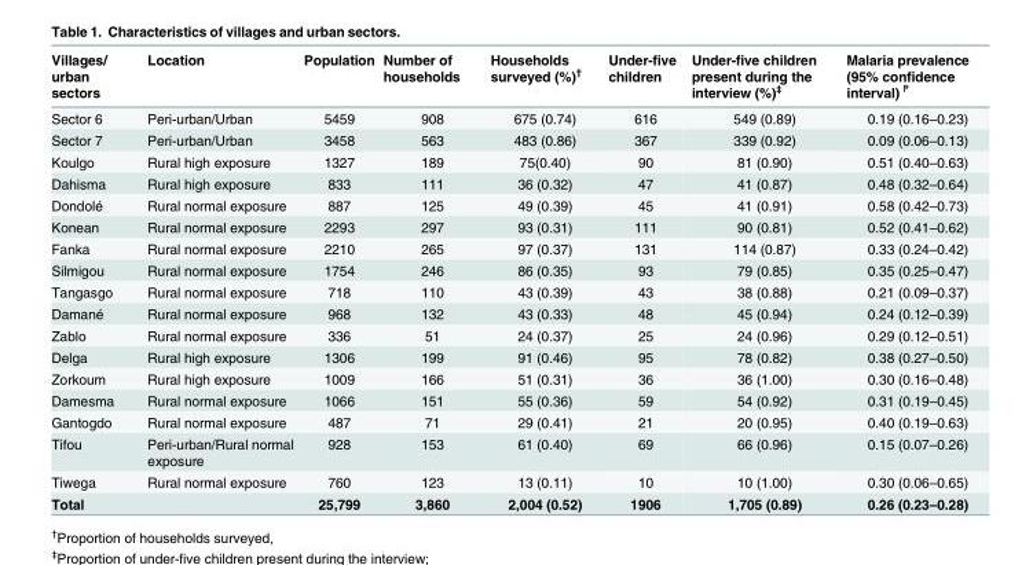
<table><thead><tr><td>Villages/ urban sectors</td><td>Location</td><td>Population</td><td>Number of households</td><td>Households surveyed (%)<sup>†</sup></td><td>Under-five children</td><td>Under-five children present during the interview (%)<sup>‡</sup></td><td>Malaria prevalence (95% confidence interval) <sup>₱</sup></td></tr></thead><tbody><tr><td>Sector 6</td><td>Peri-urban/Urban</td><td>5459</td><td>908</td><td>675 (0.74)</td><td>616</td><td>549 (0.89)</td><td>0.19 (0.16–0.23)</td></tr><tr><td>Sector 7</td><td>Peri-urban/Urban</td><td>3458</td><td>563</td><td>483 (0.86)</td><td>367</td><td>339 (0.92)</td><td>0.09 (0.06–0.13)</td></tr><tr><td>Koulgo</td><td>Rural high exposure</td><td>1327</td><td>189</td><td>75(0.40)</td><td>90</td><td>81 (0.90)</td><td>0.51 (0.40–0.63)</td></tr><tr><td>Dahisma</td><td>Rural high exposure</td><td>833</td><td>111</td><td>36 (0.32)</td><td>47</td><td>41 (0.87)</td><td>0.48 (0.32–0.64)</td></tr><tr><td>Dondolé</td><td>Rural normal exposure</td><td>887</td><td>125</td><td>49 (0.39)</td><td>45</td><td>41 (0.91)</td><td>0.58 (0.42–0.73)</td></tr><tr><td>Konean</td><td>Rural normal exposure</td><td>2293</td><td>297</td><td>93 (0.31)</td><td>111</td><td>90 (0.81)</td><td>0.52 (0.41–0.62)</td></tr><tr><td>Fanka</td><td>Rural normal exposure</td><td>2210</td><td>265</td><td>97 (0.37)</td><td>131</td><td>114 (0.87)</td><td>0.33 (0.24–0.42)</td></tr><tr><td>Silmigou</td><td>Rural normal exposure</td><td>1754</td><td>246</td><td>86 (0.35)</td><td>93</td><td>79 (0.85)</td><td>0.35 (0.25–0.47)</td></tr><tr><td>Tangasgo</td><td>Rural normal exposure</td><td>718</td><td>110</td><td>43 (0.39)</td><td>43</td><td>38 (0.88)</td><td>0.21 (0.09–0.37)</td></tr><tr><td>Damané</td><td>Rural normal exposure</td><td>968</td><td>132</td><td>43 (0.33)</td><td>48</td><td>45 (0.94)</td><td>0.24 (0.12–0.39)</td></tr><tr><td>Zablo</td><td>Rural normal exposure</td><td>336</td><td>51</td><td>24 (0.37)</td><td>25</td><td>24 (0.96)</td><td>0.29 (0.12–0.51)</td></tr><tr><td>Delga</td><td>Rural high exposure</td><td>1306</td><td>199</td><td>91 (0.46)</td><td>95</td><td>78 (0.82)</td><td>0.38 (0.27–0.50)</td></tr><tr><td>Zorkoum</td><td>Rural high exposure</td><td>1009</td><td>166</td><td>51 (0.31)</td><td>36</td><td>36 (1.00)</td><td>0.30 (0.16–0.48)</td></tr><tr><td>Damesma</td><td>Rural normal exposure</td><td>1066</td><td>151</td><td>55 (0.36)</td><td>59</td><td>54 (0.92)</td><td>0.31 (0.19–0.45)</td></tr><tr><td>Gantogdo</td><td>Rural normal exposure</td><td>487</td><td>71</td><td>29 (0.41)</td><td>21</td><td>20 (0.95)</td><td>0.40 (0.19–0.63)</td></tr><tr><td>Tifou</td><td>Peri-urban/Rural normal exposure</td><td>928</td><td>153</td><td>61 (0.40)</td><td>69</td><td>66 (0.96)</td><td>0.15 (0.07–0.26)</td></tr><tr><td>Tiwega</td><td>Rural normal exposure</td><td>760</td><td>123</td><td>13 (0.11)</td><td>10</td><td>10 (1.00)</td><td>0.30 (0.06–0.65)</td></tr><tr><td colspan="2">Total</td><td>25,799</td><td>3,860</td><td>2,004 (0.52)</td><td>1906</td><td>1,705 (0.89)</td><td>0.26 (0.23–0.28)</td></tr></tbody></table>